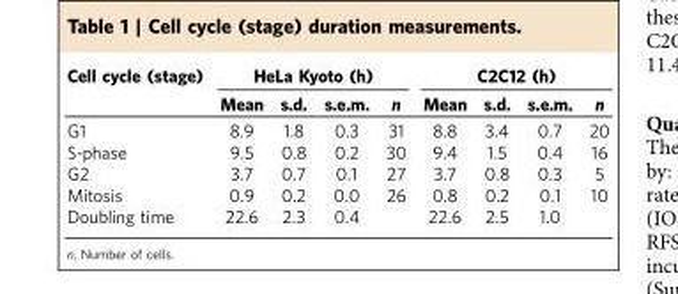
<table><thead><tr><td rowspan="2">Cell cycle (stage)</td><td colspan="4">HeLa Kyoto (h)</td><td colspan="4">C2C12 (h)</td></tr><tr><td>Mean</td><td>s.d.</td><td>s.e.m.</td><td>n</td><td>Mean</td><td>s.d.</td><td>s.e.m.</td><td>n</td></tr></thead><tbody><tr><td>G1</td><td>8.9</td><td>1.8</td><td>0.3</td><td>31</td><td>8.8</td><td>3.4</td><td>0.7</td><td>20</td></tr><tr><td>S-phase</td><td>9.5</td><td>0.8</td><td>0.2</td><td>30</td><td>9.4</td><td>1.5</td><td>0.4</td><td>16</td></tr><tr><td>G2</td><td>3.7</td><td>0.7</td><td>0.1</td><td>27</td><td>3.7</td><td>0.8</td><td>0.3</td><td>5</td></tr><tr><td>Mitosis</td><td>0.9</td><td>0.2</td><td>0.0</td><td>26</td><td>0.8</td><td>0.2</td><td>0.1</td><td>10</td></tr><tr><td>Doubling time</td><td>22.6</td><td>2.3</td><td>0.4</td><td></td><td>22.6</td><td>2.5</td><td>1.0</td><td></td></tr></tbody></table>